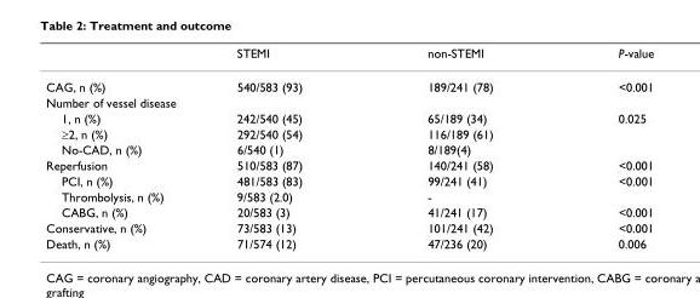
<table><thead><tr><td></td><td>STEMI</td><td>non-STEMI</td><td>P-value</td></tr></thead><tbody><tr><td>CAG, n (%)</td><td>540/583 (93)</td><td>189/241 (78)</td><td>&lt;0.001</td></tr><tr><td colspan="4">Number of vessel disease</td></tr><tr><td>1, n (%)</td><td>242/540 (45)</td><td>65/189 (34)</td><td>0.025</td></tr><tr><td>≥2, n (%)</td><td>292/540 (54)</td><td>116/189 (61)</td><td></td></tr><tr><td>No-CAD, n (%)</td><td>6/540 (1)</td><td>8/189(4)</td><td></td></tr><tr><td>Reperfusion</td><td>510/583 (87)</td><td>140/241 (58)</td><td>&lt;0.001</td></tr><tr><td>PCI, n (%)</td><td>481/583 (83)</td><td>99/241 (41)</td><td>&lt;0.001</td></tr><tr><td>Thrombolysis, n (%)</td><td>9/583 (2.0)</td><td>-</td><td></td></tr><tr><td>CABG, n (%)</td><td>20/583 (3)</td><td>41/241 (17)</td><td>&lt;0.001</td></tr><tr><td>Conservative, n (%)</td><td>73/583 (13)</td><td>101/241 (42)</td><td>&lt;0.001</td></tr><tr><td>Death, n (%)</td><td>71/574 (12)</td><td>47/236 (20)</td><td>0.006</td></tr></tbody></table>